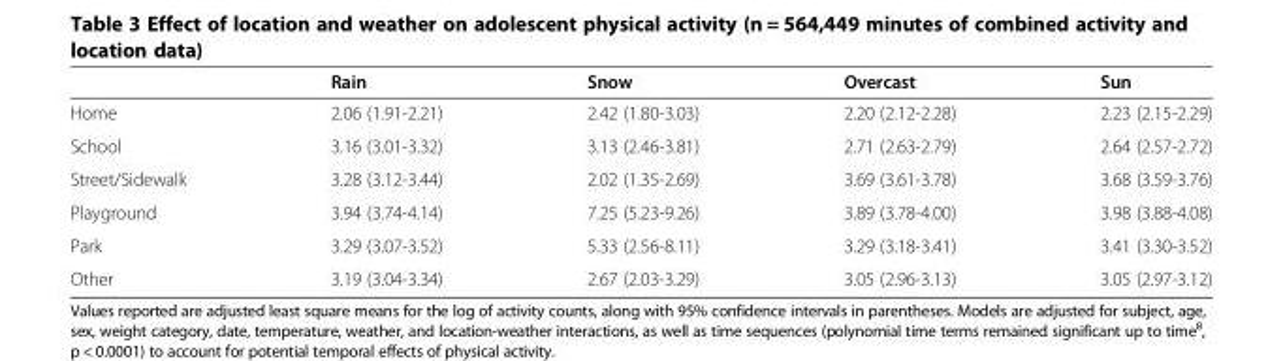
<table><thead><tr><td></td><td>Rain</td><td>Snow</td><td>Overcast</td><td>Sun</td></tr></thead><tbody><tr><td>Home</td><td>2.06 (1.91-2.21)</td><td>2.42 (1.80-3.03)</td><td>2.20 (2.12-2.28)</td><td>2.23 (2.15-2.29)</td></tr><tr><td>School</td><td>3.16 (3.01-3.32)</td><td>3.13 (2.46-3.81)</td><td>2.71 (2.63-2.79)</td><td>2.64 (2.57-2.72)</td></tr><tr><td>Street/Sidewalk</td><td>3.28 (3.12-3.44)</td><td>2.02 (1.35-2.69)</td><td>3.69 (3.61-3.78)</td><td>3.68 (3.59-3.76)</td></tr><tr><td>Playground</td><td>3.94 (3.74-4.14)</td><td>7.25 (5.23-9.26)</td><td>3.89 (3.78-4.00)</td><td>3.98 (3.88-4.08)</td></tr><tr><td>Park</td><td>3.29 (3.07-3.52)</td><td>5.33 (2.56-8.11)</td><td>3.29 (3.18-3.41)</td><td>3.41 (3.30-3.52)</td></tr><tr><td>Other</td><td>3.19 (3.04-3.34)</td><td>2.67 (2.03-3.29)</td><td>3.05 (2.96-3.13)</td><td>3.05 (2.97-3.12)</td></tr></tbody></table>